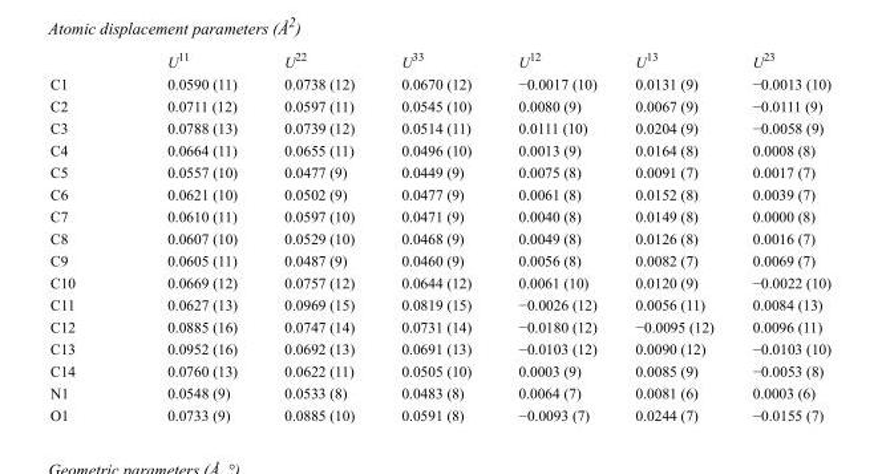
<table><thead><tr><td></td><td>U<sup>11</sup></td><td>U<sup>22</sup></td><td>U<sup>33</sup></td><td>U<sup>12</sup></td><td>U<sup>13</sup></td><td>U<sup>23</sup></td></tr></thead><tbody><tr><td>C1</td><td>0.0590 (11)</td><td>0.0738 (12)</td><td>0.0670 (12)</td><td>−0.0017 (10)</td><td>0.0131 (9)</td><td>−0.0013 (10)</td></tr><tr><td>C2</td><td>0.0711 (12)</td><td>0.0597 (11)</td><td>0.0545 (10)</td><td>0.0080 (9)</td><td>0.0067 (9)</td><td>−0.0111 (9)</td></tr><tr><td>C3</td><td>0.0788 (13)</td><td>0.0739 (12)</td><td>0.0514 (11)</td><td>0.0111 (10)</td><td>0.0204 (9)</td><td>−0.0058 (9)</td></tr><tr><td>C4</td><td>0.0664 (11)</td><td>0.0655 (11)</td><td>0.0496 (10)</td><td>0.0013 (9)</td><td>0.0164 (8)</td><td>0.0008 (8)</td></tr><tr><td>C5</td><td>0.0557 (10)</td><td>0.0477 (9)</td><td>0.0449 (9)</td><td>0.0075 (8)</td><td>0.0091 (7)</td><td>0.0017 (7)</td></tr><tr><td>C6</td><td>0.0621 (10)</td><td>0.0502 (9)</td><td>0.0477 (9)</td><td>0.0061 (8)</td><td>0.0152 (8)</td><td>0.0039 (7)</td></tr><tr><td>C7</td><td>0.0610 (11)</td><td>0.0597 (10)</td><td>0.0471 (9)</td><td>0.0040 (8)</td><td>0.0149 (8)</td><td>0.0000 (8)</td></tr><tr><td>C8</td><td>0.0607 (10)</td><td>0.0529 (10)</td><td>0.0468 (9)</td><td>0.0049 (8)</td><td>0.0126 (8)</td><td>0.0016 (7)</td></tr><tr><td>C9</td><td>0.0605 (11)</td><td>0.0487 (9)</td><td>0.0460 (9)</td><td>0.0056 (8)</td><td>0.0082 (7)</td><td>0.0069 (7)</td></tr><tr><td>C10</td><td>0.0669 (12)</td><td>0.0757 (12)</td><td>0.0644 (12)</td><td>0.0061 (10)</td><td>0.0120 (9)</td><td>−0.0022 (10)</td></tr><tr><td>C11</td><td>0.0627 (13)</td><td>0.0969 (15)</td><td>0.0819 (15)</td><td>−0.0026 (12)</td><td>0.0056 (11)</td><td>0.0084 (13)</td></tr><tr><td>C12</td><td>0.0885 (16)</td><td>0.0747 (14)</td><td>0.0731 (14)</td><td>−0.0180 (12)</td><td>−0.0095 (12)</td><td>0.0096 (11)</td></tr><tr><td>C13</td><td>0.0952 (16)</td><td>0.0692 (13)</td><td>0.0691 (13)</td><td>−0.0103 (12)</td><td>0.0090 (12)</td><td>−0.0103 (10)</td></tr><tr><td>C14</td><td>0.0760 (13)</td><td>0.0622 (11)</td><td>0.0505 (10)</td><td>0.0003 (9)</td><td>0.0085 (9)</td><td>−0.0053 (8)</td></tr><tr><td>N1</td><td>0.0548 (9)</td><td>0.0533 (8)</td><td>0.0483 (8)</td><td>0.0064 (7)</td><td>0.0081 (6)</td><td>0.0003 (6)</td></tr><tr><td>O1</td><td>0.0733 (9)</td><td>0.0885 (10)</td><td>0.0591 (8)</td><td>−0.0093 (7)</td><td>0.0244 (7)</td><td>−0.0155 (7)</td></tr></tbody></table>